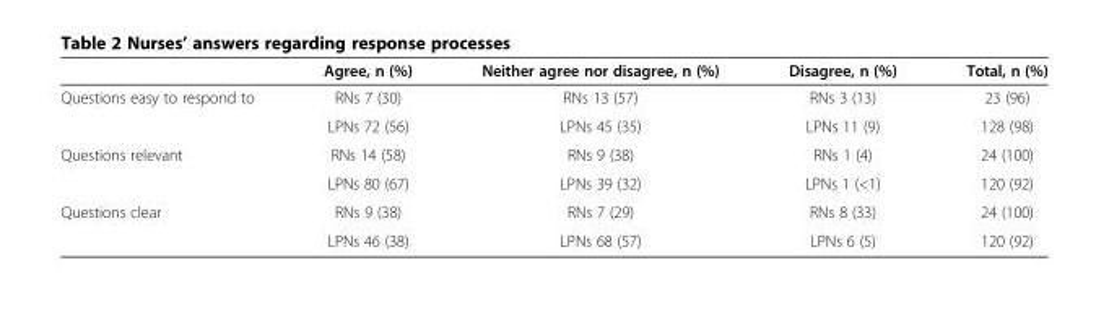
<table><thead><tr><td></td><td>Agree, n (%)</td><td>Neither agree nor disagree, n (%)</td><td>Disagree, n (%)</td><td>Total, n (%)</td></tr></thead><tbody><tr><td rowspan="2">Questions easy to respond to</td><td>RNs 7 (30)</td><td>RNs 13 (57)</td><td>RNs 3 (13)</td><td>23 (96)</td></tr><tr><td>LPNs 72 (56)</td><td>LPNs 45 (35)</td><td>LPNs 11 (9)</td><td>128 (98)</td></tr><tr><td rowspan="2">Questions relevant</td><td>RNs 14 (58)</td><td>RNs 9 (38)</td><td>RNs 1 (4)</td><td>24 (100)</td></tr><tr><td>LPNs 80 (67)</td><td>LPNs 39 (32)</td><td>LPNs 1 (&lt;1)</td><td>120 (92)</td></tr><tr><td rowspan="2">Questions clear</td><td>RNs 9 (38)</td><td>RNs 7 (29)</td><td>RNs 8 (33)</td><td>24 (100)</td></tr><tr><td>LPNs 46 (38)</td><td>LPNs 68 (57)</td><td>LPNs 6 (5)</td><td>120 (92)</td></tr></tbody></table>